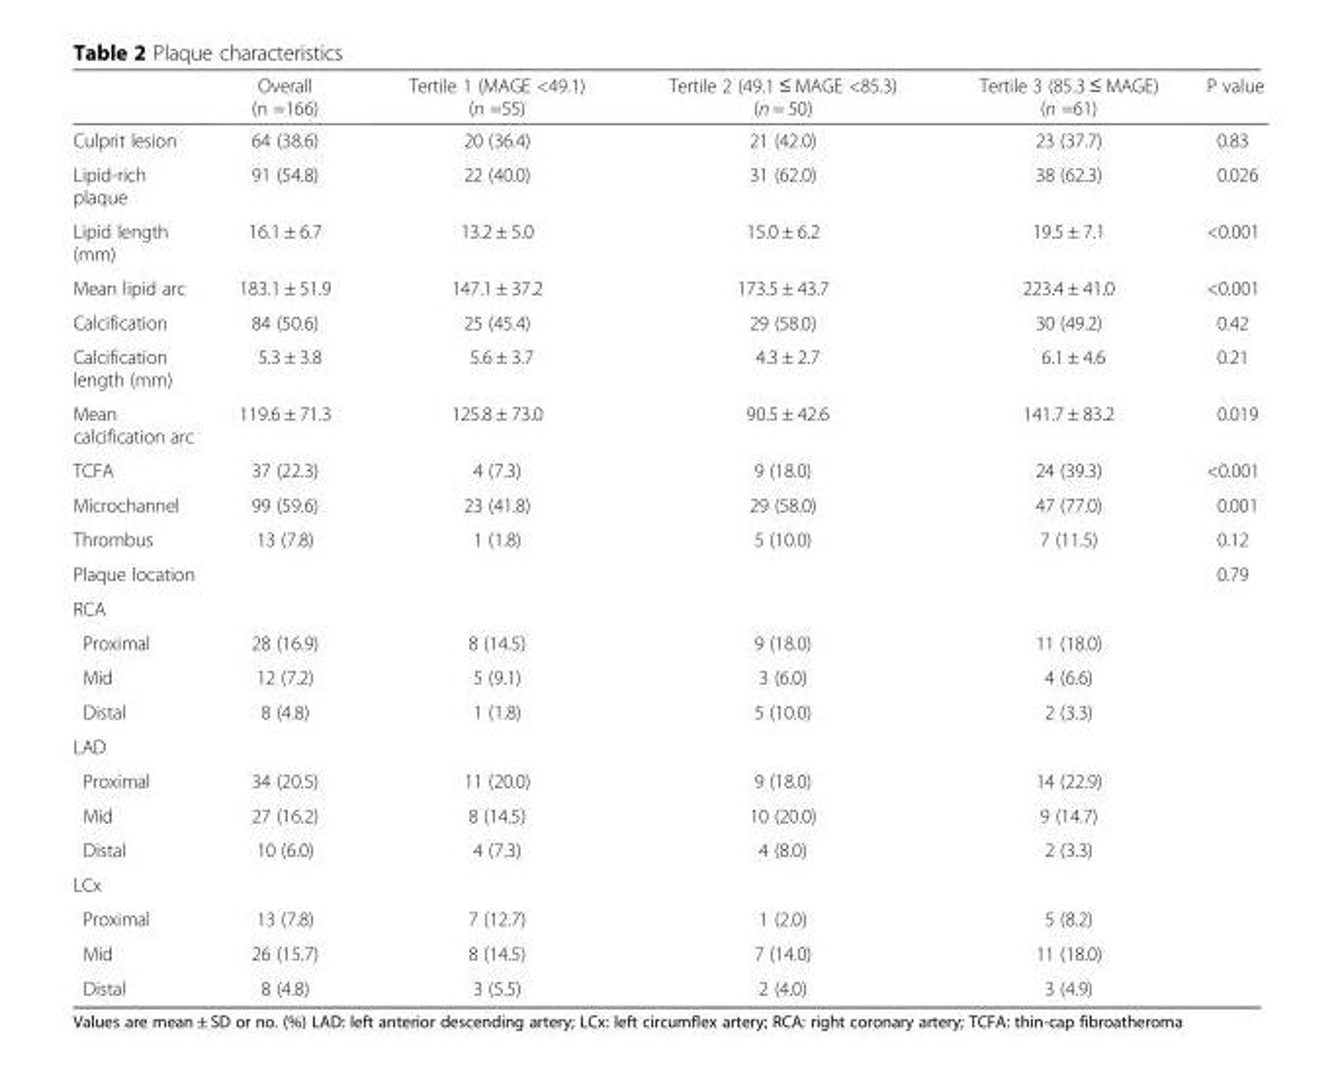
<table><thead><tr><td></td><td>Overall (n =166)</td><td>Tertile 1 (MAGE &lt;49.1) (n =55)</td><td>Tertile 2 (49.1 ≤ MAGE &lt;85.3) (n = 50)</td><td>Tertile 3 (85.3 ≤ MAGE) (n =61)</td><td>P value</td></tr></thead><tbody><tr><td>Culprit lesion</td><td>64 (38.6)</td><td>20 (36.4)</td><td>21 (42.0)</td><td>23 (37.7)</td><td>0.83</td></tr><tr><td>Lipid-rich plaque</td><td>91 (54.8)</td><td>22 (40.0)</td><td>31 (62.0)</td><td>38 (62.3)</td><td>0.026</td></tr><tr><td>Lipid length (mm)</td><td>16.1 ± 6.7</td><td>13.2 ± 5.0</td><td>15.0 ± 6.2</td><td>19.5 ± 7.1</td><td>&lt;0.001</td></tr><tr><td>Mean lipid arc</td><td>183.1 ± 51.9</td><td>147.1 ± 37.2</td><td>173.5 ± 43.7</td><td>223.4 ± 41.0</td><td>&lt;0.001</td></tr><tr><td>Calcification</td><td>84 (50.6)</td><td>25 (45.4)</td><td>29 (58.0)</td><td>30 (49.2)</td><td>0.42</td></tr><tr><td>Calcification length (mm)</td><td>5.3 ± 3.8</td><td>5.6 ± 3.7</td><td>4.3 ± 2.7</td><td>6.1 ± 4.6</td><td>0.21</td></tr><tr><td>Mean calcification arc</td><td>119.6 ± 71.3</td><td>125.8 ± 73.0</td><td>90.5 ± 42.6</td><td>141.7 ± 83.2</td><td>0.019</td></tr><tr><td>TCFA</td><td>37 (22.3)</td><td>4 (7.3)</td><td>9 (18.0)</td><td>24 (39.3)</td><td>&lt;0.001</td></tr><tr><td>Microchannel</td><td>99 (59.6)</td><td>23 (41.8)</td><td>29 (58.0)</td><td>47 (77.0)</td><td>0.001</td></tr><tr><td>Thrombus</td><td>13 (7.8)</td><td>1 (1.8)</td><td>5 (10.0)</td><td>7 (11.5)</td><td>0.12</td></tr><tr><td>Plaque location</td><td></td><td></td><td></td><td></td><td>0.79</td></tr><tr><td colspan="6">RCA</td></tr><tr><td>Proximal</td><td>28 (16.9)</td><td>8 (14.5)</td><td>9 (18.0)</td><td>11 (18.0)</td><td></td></tr><tr><td>Mid</td><td>12 (7.2)</td><td>5 (9.1)</td><td>3 (6.0)</td><td>4 (6.6)</td><td></td></tr><tr><td>Distal</td><td>8 (4.8)</td><td>1 (1.8)</td><td>5 (10.0)</td><td>2 (3.3)</td><td></td></tr><tr><td colspan="6">LAD</td></tr><tr><td>Proximal</td><td>34 (20.5)</td><td>11 (20.0)</td><td>9 (18.0)</td><td>14 (22.9)</td><td></td></tr><tr><td>Mid</td><td>27 (16.2)</td><td>8 (14.5)</td><td>10 (20.0)</td><td>9 (14.7)</td><td></td></tr><tr><td>Distal</td><td>10 (6.0)</td><td>4 (7.3)</td><td>4 (8.0)</td><td>2 (3.3)</td><td></td></tr><tr><td colspan="6">LCx</td></tr><tr><td>Proximal</td><td>13 (7.8)</td><td>7 (12.7)</td><td>1 (2.0)</td><td>5 (8.2)</td><td></td></tr><tr><td>Mid</td><td>26 (15.7)</td><td>8 (14.5)</td><td>7 (14.0)</td><td>11 (18.0)</td><td></td></tr><tr><td>Distal</td><td>8 (4.8)</td><td>3 (5.5)</td><td>2 (4.0)</td><td>3 (4.9)</td><td></td></tr></tbody></table>